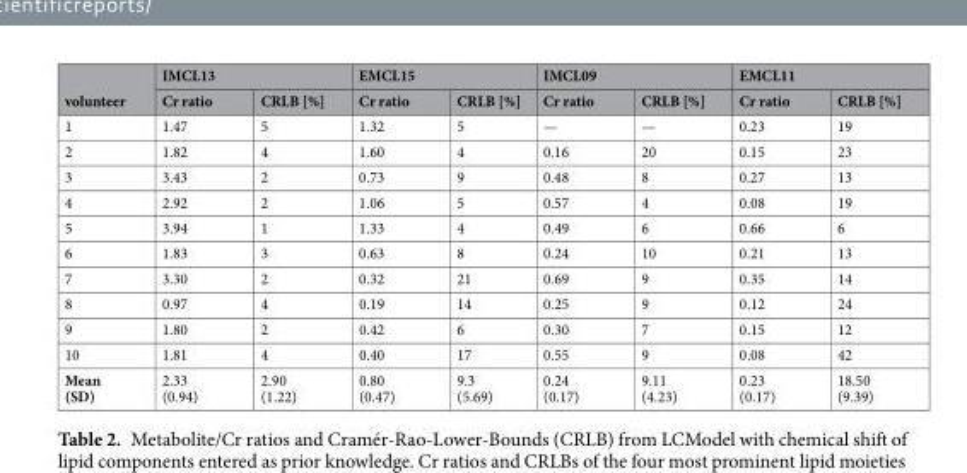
<table><thead><tr><td rowspan="2">volunteer</td><td colspan="2">IMCL13</td><td colspan="2">EMCL15</td><td colspan="2">IMCL09</td><td colspan="2">EMCL11</td></tr><tr><td>Cr ratio</td><td>CRLB [%]</td><td>Cr ratio</td><td>CRLB [%]</td><td>Cr ratio</td><td>CRLB [%]</td><td>Cr ratio</td><td>CRLB [%]</td></tr></thead><tbody><tr><td>1</td><td>1.47</td><td>5</td><td>1.32</td><td>5</td><td>—</td><td>—</td><td>0.23</td><td>19</td></tr><tr><td>2</td><td>1.82</td><td>4</td><td>1.60</td><td>4</td><td>0.16</td><td>20</td><td>0.15</td><td>23</td></tr><tr><td>3</td><td>3.43</td><td>2</td><td>0.73</td><td>9</td><td>0.48</td><td>8</td><td>0.27</td><td>13</td></tr><tr><td>4</td><td>2.92</td><td>2</td><td>1.06</td><td>5</td><td>0.57</td><td>4</td><td>0.08</td><td>19</td></tr><tr><td>5</td><td>3.94</td><td>1</td><td>1.33</td><td>4</td><td>0.49</td><td>6</td><td>0.66</td><td>6</td></tr><tr><td>6</td><td>1.83</td><td>3</td><td>0.63</td><td>8</td><td>0.24</td><td>10</td><td>0.21</td><td>13</td></tr><tr><td>7</td><td>3.30</td><td>2</td><td>0.32</td><td>21</td><td>0.69</td><td>9</td><td>0.35</td><td>14</td></tr><tr><td>8</td><td>0.97</td><td>4</td><td>0.19</td><td>14</td><td>0.25</td><td>9</td><td>0.12</td><td>24</td></tr><tr><td>9</td><td>1.80</td><td>2</td><td>0.42</td><td>6</td><td>0.30</td><td>7</td><td>0.15</td><td>12</td></tr><tr><td>10</td><td>1.81</td><td>4</td><td>0.40</td><td>17</td><td>0.55</td><td>9</td><td>0.08</td><td>42</td></tr><tr><td>Mean (SD)</td><td>2.33 (0.94)</td><td>2.90 (1.22)</td><td>0.80 (0.47)</td><td>9.3 (5.69)</td><td>0.24 (0.17)</td><td>9.11 (4.23)</td><td>0.23 (0.17)</td><td>18.50 (9.39)</td></tr></tbody></table>